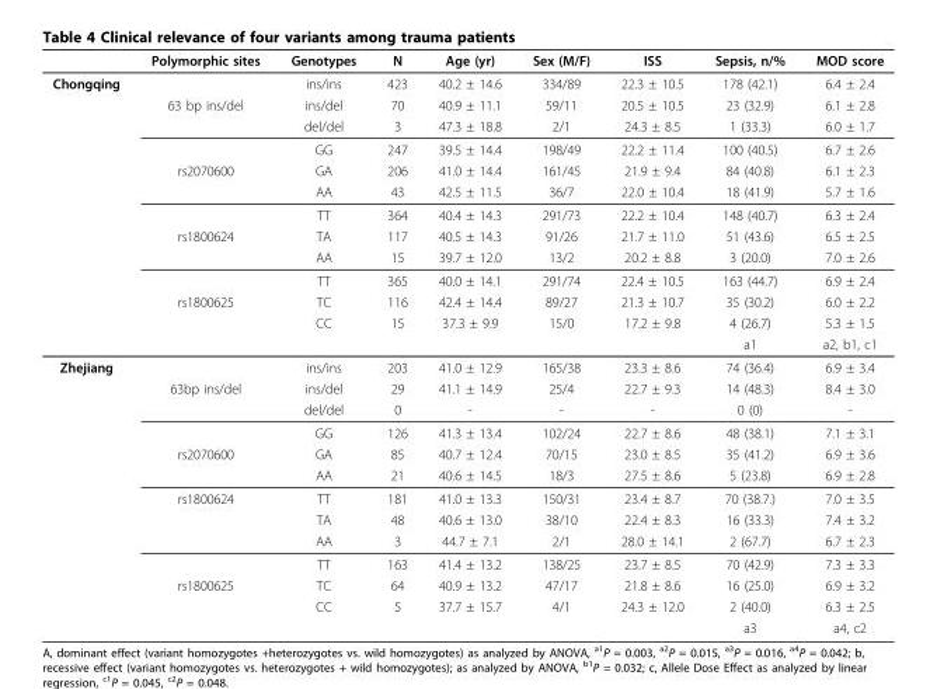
<table><thead><tr><td></td><td>Polymorphic sites</td><td>Genotypes</td><td>N</td><td>Age (yr)</td><td>Sex (M/F)</td><td>ISS</td><td>Sepsis, n/%</td><td>MOD score</td></tr></thead><tbody><tr><td rowspan="13">Chongqing</td><td></td><td>ins/ins</td><td>423</td><td>40.2 ± 14.6</td><td>334/89</td><td>22.3 ± 10.5</td><td>178 (42.1)</td><td>6.4 ± 2.4</td></tr><tr><td>63 bp ins/del</td><td>ins/del</td><td>70</td><td>40.9 ± 11.1</td><td>59/11</td><td>20.5 ± 10.5</td><td>23 (32.9)</td><td>6.1 ± 2.8</td></tr><tr><td></td><td>del/del</td><td>3</td><td>47.3 ± 18.8</td><td>2/1</td><td>24.3 ± 8.5</td><td>1 (33.3)</td><td>6.0 ± 1.7</td></tr><tr><td></td><td>GG</td><td>247</td><td>39.5 ± 14.4</td><td>198/49</td><td>22.2 ± 11.4</td><td>100 (40.5)</td><td>6.7 ± 2.6</td></tr><tr><td>rs2070600</td><td>GA</td><td>206</td><td>41.0 ± 14.4</td><td>161/45</td><td>21.9 ± 9.4</td><td>84 (40.8)</td><td>6.1 ± 2.3</td></tr><tr><td></td><td>AA</td><td>43</td><td>42.5 ± 11.5</td><td>36/7</td><td>22.0 ± 10.4</td><td>18 (41.9)</td><td>5.7 ± 1.6</td></tr><tr><td></td><td>TT</td><td>364</td><td>40.4 ± 14.3</td><td>291/73</td><td>22.2 ± 10.4</td><td>148 (40.7)</td><td>6.3 ± 2.4</td></tr><tr><td>rs1800624</td><td>TA</td><td>117</td><td>40.5 ± 14.3</td><td>91/26</td><td>21.7 ± 11.0</td><td>51 (43.6)</td><td>6.5 ± 2.5</td></tr><tr><td></td><td>AA</td><td>15</td><td>39.7 ± 12.0</td><td>13/2</td><td>20.2 ± 8.8</td><td>3 (20.0)</td><td>7.0 ± 2.6</td></tr><tr><td></td><td>TT</td><td>365</td><td>40.0 ± 14.1</td><td>291/74</td><td>22.4 ± 10.5</td><td>163 (44.7)</td><td>6.9 ± 2.4</td></tr><tr><td>rs1800625</td><td>TC</td><td>116</td><td>42.4 ± 14.4</td><td>89/27</td><td>21.3 ± 10.7</td><td>35 (30.2)</td><td>6.0 ± 2.2</td></tr><tr><td></td><td>CC</td><td>15</td><td>37.3 ± 9.9</td><td>15/0</td><td>17.2 ± 9.8</td><td>4 (26.7)</td><td>5.3 ± 1.5</td></tr><tr><td></td><td></td><td></td><td></td><td></td><td></td><td>a1</td><td>a2, b1, c1</td></tr><tr><td rowspan="13">Zhejiang</td><td></td><td>ins/ins</td><td>203</td><td>41.0 ± 12.9</td><td>165/38</td><td>23.3 ± 8.6</td><td>74 (36.4)</td><td>6.9 ± 3.4</td></tr><tr><td>63bp ins/del</td><td>ins/del</td><td>29</td><td>41.1 ± 14.9</td><td>25/4</td><td>22.7 ± 9.3</td><td>14 (48.3)</td><td>8.4 ± 3.0</td></tr><tr><td></td><td>del/del</td><td>0</td><td>-</td><td>-</td><td>-</td><td>0 (0)</td><td>-</td></tr><tr><td></td><td>GG</td><td>126</td><td>41.3 ± 13.4</td><td>102/24</td><td>22.7 ± 8.6</td><td>48 (38.1)</td><td>7.1 ± 3.1</td></tr><tr><td>rs2070600</td><td>GA</td><td>85</td><td>40.7 ± 12.4</td><td>70/15</td><td>23.0 ± 8.5</td><td>35 (41.2)</td><td>6.9 ± 3.6</td></tr><tr><td></td><td>AA</td><td>21</td><td>40.6 ± 14.5</td><td>18/3</td><td>27.5 ± 8.6</td><td>5 (23.8)</td><td>6.9 ± 2.8</td></tr><tr><td>rs1800624</td><td>TT</td><td>181</td><td>41.0 ± 13.3</td><td>150/31</td><td>23.4 ± 8.7</td><td>70 (38.7.)</td><td>7.0 ± 3.5</td></tr><tr><td></td><td>TA</td><td>48</td><td>40.6 ± 13.0</td><td>38/10</td><td>22.4 ± 8.3</td><td>16 (33.3)</td><td>7.4 ± 3.2</td></tr><tr><td></td><td>AA</td><td>3</td><td>44.7 ± 7.1</td><td>2/1</td><td>28.0 ± 14.1</td><td>2 (67.7)</td><td>6.7 ± 2.3</td></tr><tr><td></td><td>TT</td><td>163</td><td>41.4 ± 13.2</td><td>138/25</td><td>23.7 ± 8.5</td><td>70 (42.9)</td><td>7.3 ± 3.3</td></tr><tr><td>rs1800625</td><td>TC</td><td>64</td><td>40.9 ± 13.2</td><td>47/17</td><td>21.8 ± 8.6</td><td>16 (25.0)</td><td>6.9 ± 3.2</td></tr><tr><td></td><td>CC</td><td>5</td><td>37.7 ± 15.7</td><td>4/1</td><td>24.3 ± 12.0</td><td>2 (40.0)</td><td>6.3 ± 2.5</td></tr><tr><td></td><td></td><td></td><td></td><td></td><td></td><td>a3</td><td>a4, c2</td></tr></tbody></table>